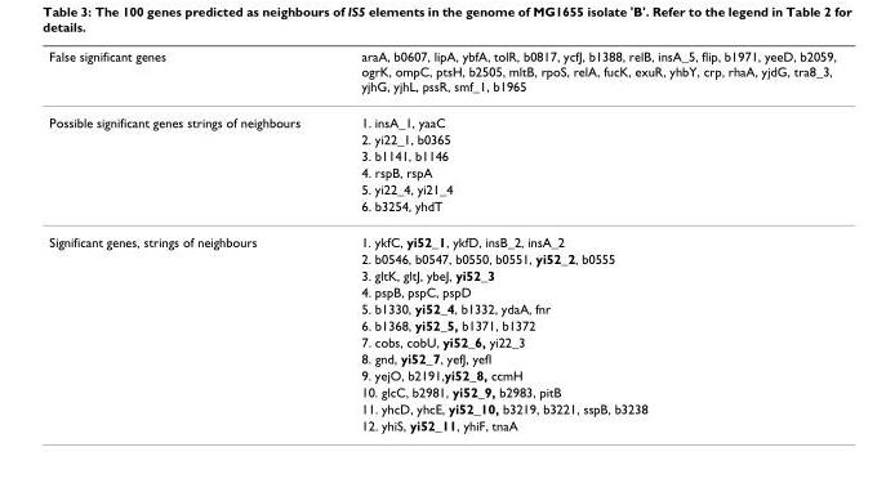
<table><thead><tr><td>False significant genes</td><td>araA, b0607, lipA, ybfA, tolR, b0817, ycfJ, b1388, relB, insA_5, flip, b1971, yeeD, b2059, ogrK, ompC, ptsH, b2505, mltB, rpoS, relA, fucK, exuR, yhbY, crp, rhaA, yjdG, tra8_3, yjhG, yjhL, pssR, smf_1, b1965</td></tr></thead><tbody><tr><td rowspan="6">Possible significant genes strings of neighbours</td><td>1. insA_1, yaaC</td></tr><tr><td>2. yi22_1, b0365</td></tr><tr><td>3. b1141, b1146</td></tr><tr><td>4. rspB, rspA</td></tr><tr><td>5. yi22_4, yi21_4</td></tr><tr><td>6. b3254, yhdT</td></tr><tr><td rowspan="12">Significant genes, strings of neighbours</td><td>1. ykfC, yi52_1, ykfD, insB_2, insA_2</td></tr><tr><td>2. b0546, b0547, b0550, b0551, yi52_2, b0555</td></tr><tr><td>3. gltK, gltJ, ybeJ, yi52_3</td></tr><tr><td>4. pspB, pspC, pspD</td></tr><tr><td>5. b1330, yi52_4, b1332, ydaA, fnr</td></tr><tr><td>6. b1368, yi52_5, b1371, b1372</td></tr><tr><td>7. cobs, cobU, yi52_6, yi22_3</td></tr><tr><td>8. gnd, yi52_7, yefJ, yefI</td></tr><tr><td>9. yejO, b2191,yi52_8, ccmH</td></tr><tr><td>10. glcC, b2981, yi52_9, b2983, pitB</td></tr><tr><td>11. yhcD, yhcE, yi52_10, b3219, b3221, sspB, b3238</td></tr><tr><td>12. yhiS, yi52_11, yhiF, tnaA</td></tr></tbody></table>